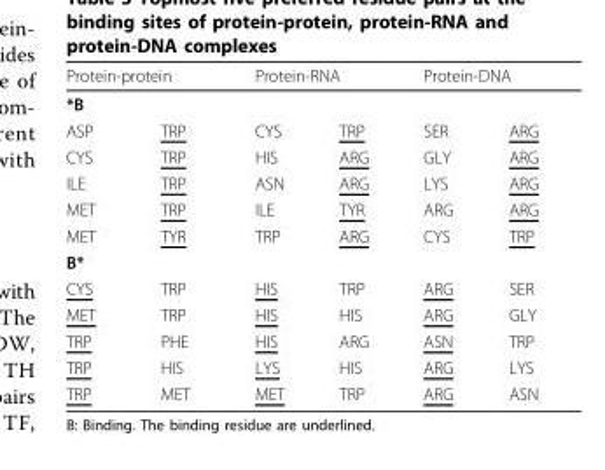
<table><thead><tr><td colspan="2">Protein-protein</td><td colspan="2">Protein-RNA</td><td colspan="2">Protein-DNA</td></tr><tr><td colspan="6">*B</td></tr><tr><td>ASP</td><td>TRP</td><td>CYS</td><td>TRP</td><td>SER</td><td>ARG</td></tr></thead><tbody><tr><td>CYS</td><td>TRP</td><td>HIS</td><td>ARG</td><td>GLY</td><td>ARG</td></tr><tr><td>ILE</td><td>TRP</td><td>ASN</td><td>ARG</td><td>LYS</td><td>ARG</td></tr><tr><td>MET</td><td>TRP</td><td>ILE</td><td>TYR</td><td>ARG</td><td>ARG</td></tr><tr><td>MET</td><td>TYR</td><td>TRP</td><td>ARG</td><td>CYS</td><td>TRP</td></tr><tr><td colspan="6">B*</td></tr><tr><td>CYS</td><td>TRP</td><td>HIS</td><td>TRP</td><td>ARG</td><td>SER</td></tr><tr><td>MET</td><td>TRP</td><td>HIS</td><td>HIS</td><td>ARG</td><td>GLY</td></tr><tr><td>TRP</td><td>PHE</td><td>HIS</td><td>ARG</td><td>ASN</td><td>TRP</td></tr><tr><td>TRP</td><td>HIS</td><td>LYS</td><td>HIS</td><td>ARG</td><td>LYS</td></tr><tr><td>TRP</td><td>MET</td><td>MET</td><td>TRP</td><td>ARG</td><td>ASN</td></tr></tbody></table>